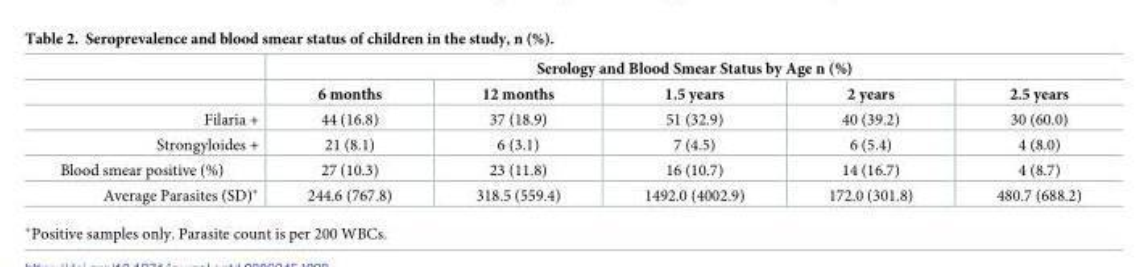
<table><thead><tr><td rowspan="2"></td><td colspan="5">Serology and Blood Smear Status by Age n (%)</td></tr><tr><td>6 months</td><td>12 months</td><td>1.5 years</td><td>2 years</td><td>2.5 years</td></tr></thead><tbody><tr><td>Filaria +</td><td>44 (16.8)</td><td>37 (18.9)</td><td>51 (32.9)</td><td>40 (39.2)</td><td>30 (60.0)</td></tr><tr><td>Strongyloides +</td><td>21 (8.1)</td><td>6 (3.1)</td><td>7 (4.5)</td><td>6 (5.4)</td><td>4 (8.0)</td></tr><tr><td>Blood smear positive (%)</td><td>27 (10.3)</td><td>23 (11.8)</td><td>16 (10.7)</td><td>14 (16.7)</td><td>4 (8.7)</td></tr><tr><td>Average Parasites (SD)*</td><td>244.6 (767.8)</td><td>318.5 (559.4)</td><td>1492.0 (4002.9)</td><td>172.0 (301.8)</td><td>480.7 (688.2)</td></tr></tbody></table>